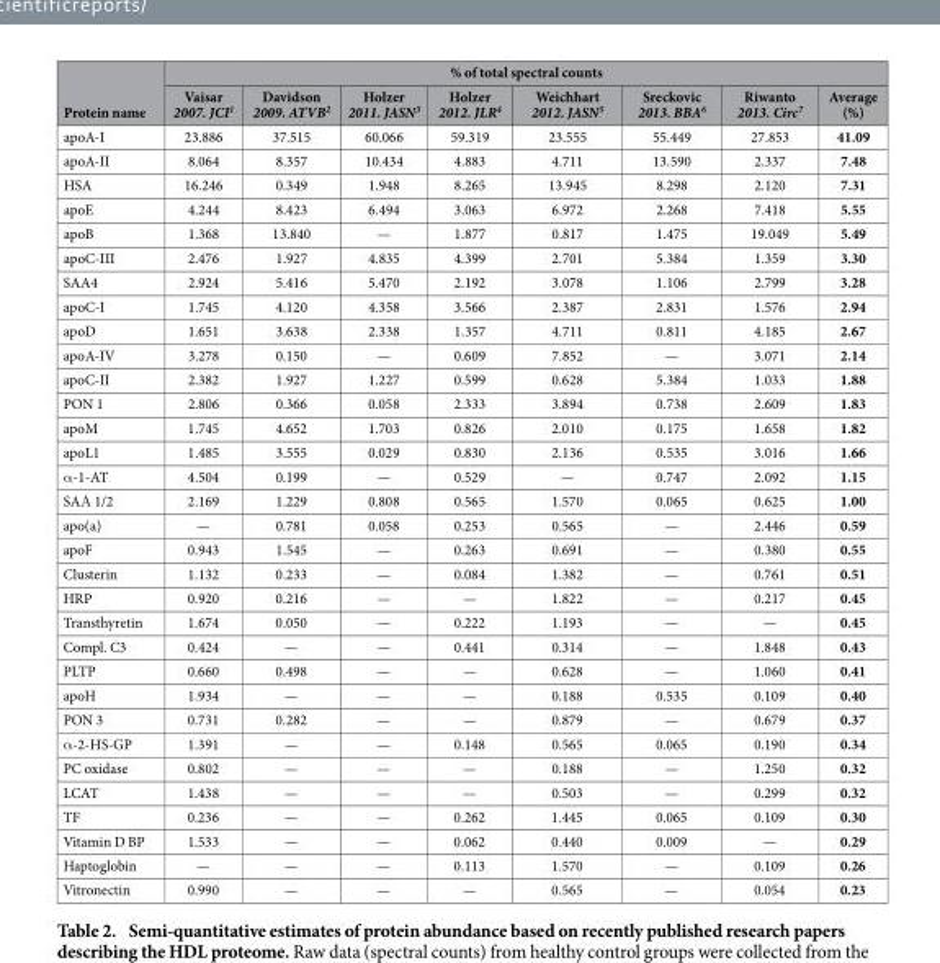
<table><thead><tr><td rowspan="2">Protein name</td><td colspan="8">% of total spectral counts</td></tr><tr><td>Vaisar 2007. JCI<sup>1</sup></td><td>Davidson 2009. ATVB<sup>2</sup></td><td>Holzer 2011. JASN<sup>3</sup></td><td>Holzer 2012. JLR<sup>4</sup></td><td>Weichhart 2012. JASN<sup>5</sup></td><td>Sreckovic 2013. BBA<sup>6</sup></td><td>Riwanto 2013. Circ<sup>7</sup></td><td>Average (%)</td></tr></thead><tbody><tr><td>apoA-I</td><td>23.886</td><td>37.515</td><td>60.066</td><td>59.319</td><td>23.555</td><td>55.449</td><td>27.853</td><td>41.09</td></tr><tr><td>apoA-II</td><td>8.064</td><td>8.357</td><td>10.434</td><td>4.883</td><td>4.711</td><td>13.590</td><td>2.337</td><td>7.48</td></tr><tr><td>HSA</td><td>16.246</td><td>0.349</td><td>1.948</td><td>8.265</td><td>13.945</td><td>8.298</td><td>2.120</td><td>7.31</td></tr><tr><td>apoE</td><td>4.244</td><td>8.423</td><td>6.494</td><td>3.063</td><td>6.972</td><td>2.268</td><td>7.418</td><td>5.55</td></tr><tr><td>apoB</td><td>1.368</td><td>13.840</td><td>—</td><td>1.877</td><td>0.817</td><td>1.475</td><td>19.049</td><td>5.49</td></tr><tr><td>apoC-III</td><td>2.476</td><td>1.927</td><td>4.835</td><td>4.399</td><td>2.701</td><td>5.384</td><td>1.359</td><td>3.30</td></tr><tr><td>SAA4</td><td>2.924</td><td>5.416</td><td>5.470</td><td>2.192</td><td>3.078</td><td>1.106</td><td>2.799</td><td>3.28</td></tr><tr><td>apoC-I</td><td>1.745</td><td>4.120</td><td>4.358</td><td>3.566</td><td>2.387</td><td>2.831</td><td>1.576</td><td>2.94</td></tr><tr><td>apoD</td><td>1.651</td><td>3.638</td><td>2.338</td><td>1.357</td><td>4.711</td><td>0.811</td><td>4.185</td><td>2.67</td></tr><tr><td>apoA-IV</td><td>3.278</td><td>0.150</td><td>—</td><td>0.609</td><td>7.852</td><td>—</td><td>3.071</td><td>2.14</td></tr><tr><td>apoC-II</td><td>2.382</td><td>1.927</td><td>1.227</td><td>0.599</td><td>0.628</td><td>5.384</td><td>1.033</td><td>1.88</td></tr><tr><td>PON 1</td><td>2.806</td><td>0.366</td><td>0.058</td><td>2.333</td><td>3.894</td><td>0.738</td><td>2.609</td><td>1.83</td></tr><tr><td>apoM</td><td>1.745</td><td>4.652</td><td>1.703</td><td>0.826</td><td>2.010</td><td>0.175</td><td>1.658</td><td>1.82</td></tr><tr><td>apoL1</td><td>1.485</td><td>3.555</td><td>0.029</td><td>0.830</td><td>2.136</td><td>0.535</td><td>3.016</td><td>1.66</td></tr><tr><td>α -1-AT</td><td>4.504</td><td>0.199</td><td>—</td><td>0.529</td><td>—</td><td>0.747</td><td>2.092</td><td>1.15</td></tr><tr><td>SAΑ 1/2</td><td>2.169</td><td>1.229</td><td>0.808</td><td>0.565</td><td>1.570</td><td>0.065</td><td>0.625</td><td>1.00</td></tr><tr><td>apo(a)</td><td>—</td><td>0.781</td><td>0.058</td><td>0.253</td><td>0.565</td><td>—</td><td>2.446</td><td>0.59</td></tr><tr><td>apoF</td><td>0.943</td><td>1.545</td><td>—</td><td>0.263</td><td>0.691</td><td>—</td><td>0.380</td><td>0.55</td></tr><tr><td>Clusterin</td><td>1.132</td><td>0.233</td><td>—</td><td>0.084</td><td>1.382</td><td>—</td><td>0.761</td><td>0.51</td></tr><tr><td>HRP</td><td>0.920</td><td>0.216</td><td>—</td><td>—</td><td>1.822</td><td>—</td><td>0.217</td><td>0.45</td></tr><tr><td>Transthyretin</td><td>1.674</td><td>0.050</td><td>—</td><td>0.222</td><td>1.193</td><td>—</td><td>—</td><td>0.45</td></tr><tr><td>Compl. C3</td><td>0.424</td><td>—</td><td>—</td><td>0.441</td><td>0.314</td><td>—</td><td>1.848</td><td>0.43</td></tr><tr><td>PLTP</td><td>0.660</td><td>0.498</td><td>—</td><td>—</td><td>0.628</td><td>—</td><td>1.060</td><td>0.41</td></tr><tr><td>apoH</td><td>1.934</td><td>—</td><td>—</td><td>—</td><td>0.188</td><td>0.535</td><td>0.109</td><td>0.40</td></tr><tr><td>PON 3</td><td>0.731</td><td>0.282</td><td>—</td><td>—</td><td>0.879</td><td>—</td><td>0.679</td><td>0.37</td></tr><tr><td>α -2-HS-GP</td><td>1.391</td><td>—</td><td>—</td><td>0.148</td><td>0.565</td><td>0.065</td><td>0.190</td><td>0.34</td></tr><tr><td>PC oxidase</td><td>0.802</td><td>—</td><td>—</td><td>—</td><td>0.188</td><td>—</td><td>1.250</td><td>0.32</td></tr><tr><td>LCAT</td><td>1.438</td><td>—</td><td>—</td><td>—</td><td>0.503</td><td>—</td><td>0.299</td><td>0.32</td></tr><tr><td>TF</td><td>0.236</td><td>—</td><td>—</td><td>0.262</td><td>1.445</td><td>0.065</td><td>0.109</td><td>0.30</td></tr><tr><td>Vitamin D BP</td><td>1.533</td><td>—</td><td>—</td><td>0.062</td><td>0.440</td><td>0.009</td><td>—</td><td>0.29</td></tr><tr><td>Haptoglobin</td><td>—</td><td>—</td><td>—</td><td>0.113</td><td>1.570</td><td>—</td><td>0.109</td><td>0.26</td></tr><tr><td>Vitronectin</td><td>0.990</td><td>—</td><td>—</td><td>—</td><td>0.565</td><td>—</td><td>0.054</td><td>0.23</td></tr></tbody></table>